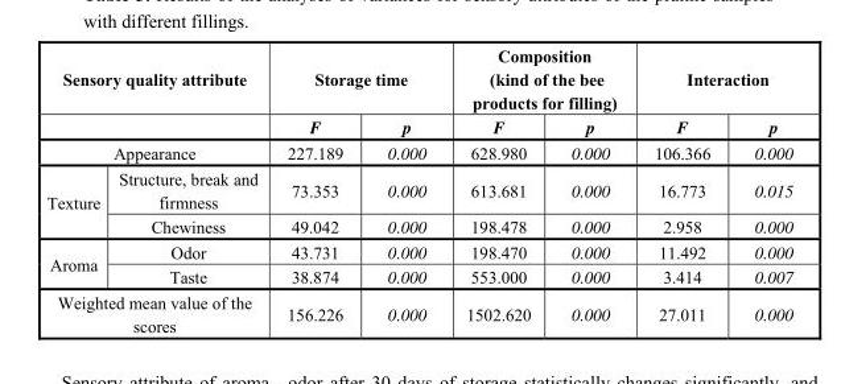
<table><thead><tr><td colspan="2">Sensory quality attribute</td><td colspan="2">Storage time</td><td colspan="2">Composition (kind of the bee products for filling)</td><td colspan="2">Interaction</td></tr><tr><td></td><td></td><td>F</td><td>p</td><td>F</td><td>p</td><td>F</td><td>p</td></tr></thead><tbody><tr><td colspan="2">Appearance</td><td>227.189</td><td>0.000</td><td>628.980</td><td>0.000</td><td>106.366</td><td>0.000</td></tr><tr><td rowspan="2">Texture</td><td>Structure, break and firmness</td><td>73.353</td><td>0.000</td><td>613.681</td><td>0.000</td><td>16.773</td><td>0.015</td></tr><tr><td>Chewiness</td><td>49.042</td><td>0.000</td><td>198.478</td><td>0.000</td><td>2.958</td><td>0.000</td></tr><tr><td rowspan="2">Aroma</td><td>Odor</td><td>43.731</td><td>0.000</td><td>198.470</td><td>0.000</td><td>11.492</td><td>0.000</td></tr><tr><td>Taste</td><td>38.874</td><td>0.000</td><td>553.000</td><td>0.000</td><td>3.414</td><td>0.007</td></tr><tr><td colspan="2">Weighted mean value of the scores</td><td>156.226</td><td>0.000</td><td>1502.620</td><td>0.000</td><td>27.011</td><td>0.000</td></tr></tbody></table>